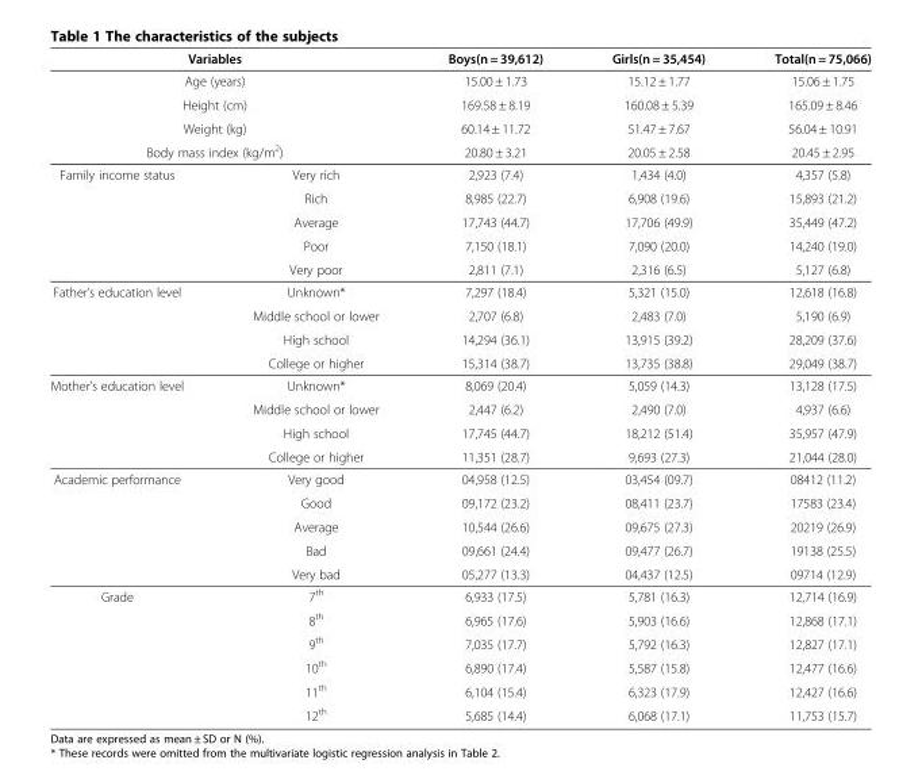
<table><thead><tr><td colspan="2">Variables</td><td>Boys(n = 39,612)</td><td>Girls(n = 35,454)</td><td>Total(n = 75,066)</td></tr></thead><tbody><tr><td colspan="2">Age (years)</td><td>15.00 ± 1.73</td><td>15.12 ± 1.77</td><td>15.06 ± 1.75</td></tr><tr><td colspan="2">Height (cm)</td><td>169.58 ± 8.19</td><td>160.08 ± 5.39</td><td>165.09 ± 8.46</td></tr><tr><td colspan="2">Weight (kg)</td><td>60.14 ± 11.72</td><td>51.47 ± 7.67</td><td>56.04 ± 10.91</td></tr><tr><td colspan="2">Body mass index (kg/m<sup>2</sup>)</td><td>20.80 ± 3.21</td><td>20.05 ± 2.58</td><td>20.45 ± 2.95</td></tr><tr><td rowspan="5">Family income status</td><td>Very rich</td><td>2,923 (7.4)</td><td>1,434 (4.0)</td><td>4,357 (5.8)</td></tr><tr><td>Rich</td><td>8,985 (22.7)</td><td>6,908 (19.6)</td><td>15,893 (21.2)</td></tr><tr><td>Average</td><td>17,743 (44.7)</td><td>17,706 (49.9)</td><td>35,449 (47.2)</td></tr><tr><td>Poor</td><td>7,150 (18.1)</td><td>7,090 (20.0)</td><td>14,240 (19.0)</td></tr><tr><td>Very poor</td><td>2,811 (7.1)</td><td>2,316 (6.5)</td><td>5,127 (6.8)</td></tr><tr><td rowspan="4">Father’s education level</td><td>Unknown*</td><td>7,297 (18.4)</td><td>5,321 (15.0)</td><td>12,618 (16.8)</td></tr><tr><td>Middle school or lower</td><td>2,707 (6.8)</td><td>2,483 (7.0)</td><td>5,190 (6.9)</td></tr><tr><td>High school</td><td>14,294 (36.1)</td><td>13,915 (39.2)</td><td>28,209 (37.6)</td></tr><tr><td>College or higher</td><td>15,314 (38.7)</td><td>13,735 (38.8)</td><td>29,049 (38.7)</td></tr><tr><td rowspan="4">Mother’s education level</td><td>Unknown*</td><td>8,069 (20.4)</td><td>5,059 (14.3)</td><td>13,128 (17.5)</td></tr><tr><td>Middle school or lower</td><td>2,447 (6.2)</td><td>2,490 (7.0)</td><td>4,937 (6.6)</td></tr><tr><td>High school</td><td>17,745 (44.7)</td><td>18,212 (51.4)</td><td>35,957 (47.9)</td></tr><tr><td>College or higher</td><td>11,351 (28.7)</td><td>9,693 (27.3)</td><td>21,044 (28.0)</td></tr><tr><td rowspan="5">Academic performance</td><td>Very good</td><td>04,958 (12.5)</td><td>03,454 (09.7)</td><td>08412 (11.2)</td></tr><tr><td>Good</td><td>09,172 (23.2)</td><td>08,411 (23.7)</td><td>17583 (23.4)</td></tr><tr><td>Average</td><td>10,544 (26.6)</td><td>09,675 (27.3)</td><td>20219 (26.9)</td></tr><tr><td>Bad</td><td>09,661 (24.4)</td><td>09,477 (26.7)</td><td>19138 (25.5)</td></tr><tr><td>Very bad</td><td>05,277 (13.3)</td><td>04,437 (12.5)</td><td>09714 (12.9)</td></tr><tr><td rowspan="6">Grade</td><td>7<sup>th</sup></td><td>6,933 (17.5)</td><td>5,781 (16.3)</td><td>12,714 (16.9)</td></tr><tr><td>8<sup>th</sup></td><td>6,965 (17.6)</td><td>5,903 (16.6)</td><td>12,868 (17.1)</td></tr><tr><td>9<sup>th</sup></td><td>7,035 (17.7)</td><td>5,792 (16.3)</td><td>12,827 (17.1)</td></tr><tr><td>10<sup>th</sup></td><td>6,890 (17.4)</td><td>5,587 (15.8)</td><td>12,477 (16.6)</td></tr><tr><td>11<sup>th</sup></td><td>6,104 (15.4)</td><td>6,323 (17.9)</td><td>12,427 (16.6)</td></tr><tr><td>12<sup>th</sup></td><td>5,685 (14.4)</td><td>6,068 (17.1)</td><td>11,753 (15.7)</td></tr></tbody></table>